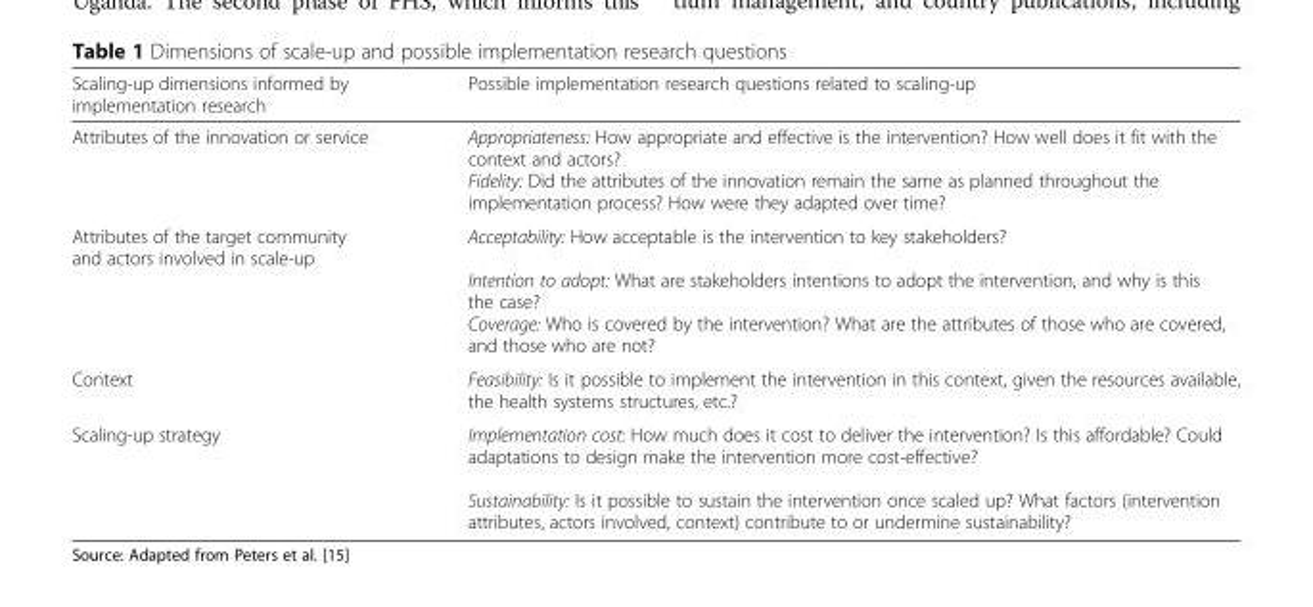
<table><thead><tr><td>Scaling-up dimensions informed by implementation research</td><td>Possible implementation research questions related to scaling-up</td></tr></thead><tbody><tr><td>Attributes of the innovation or service</td><td>Appropriateness: How appropriate and effective is the intervention? How well does it fit with the context and actors? Fidelity: Did the attributes of the innovation remain the same as planned throughout the implementation process? How were they adapted over time?</td></tr><tr><td>Attributes of the target community and actors involved in scale-up</td><td>Acceptability: How acceptable is the intervention to key stakeholders? Intention to adopt: What are stakeholders intentions to adopt the intervention, and why is this the case? Coverage: Who is covered by the intervention? What are the attributes of those who are covered, and those who are not?</td></tr><tr><td>Context</td><td>Feasibility: Is it possible to implement the intervention in this context, given the resources available, the health systems structures, etc.?</td></tr><tr><td>Scaling-up strategy</td><td>Implementation cost: How much does it cost to deliver the intervention? Is this affordable? Could adaptations to design make the intervention more cost-effective? Sustainability: Is it possible to sustain the intervention once scaled up? What factors (intervention attributes, actors involved, context) contribute to or undermine sustainability?</td></tr></tbody></table>